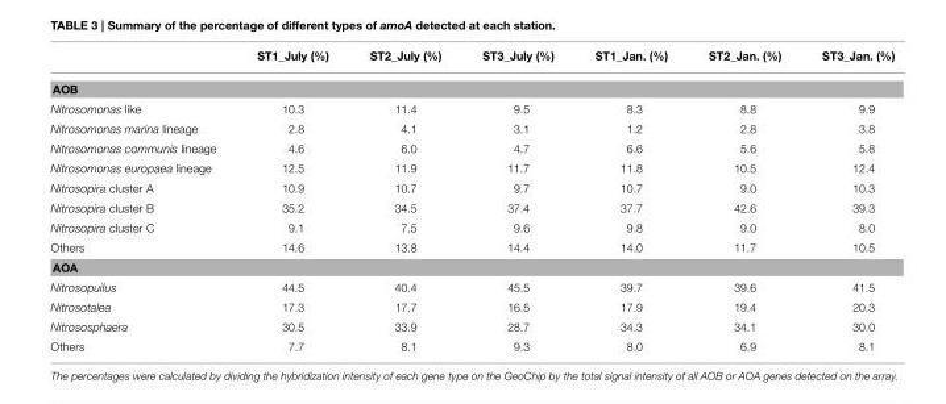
<table><thead><tr><td></td><td>ST1_July (%)</td><td>ST2_July (%)</td><td>ST3_July (%)</td><td>ST1_Jan. (%)</td><td>ST2_Jan. (%)</td><td>ST3_Jan. (%)</td></tr></thead><tbody><tr><td colspan="7">AOB</td></tr><tr><td>Nitrosomonas like</td><td>10.3</td><td>11.4</td><td>9.5</td><td>8.3</td><td>8.8</td><td>9.9</td></tr><tr><td>Nitrosomonas marina lineage</td><td>2.8</td><td>4.1</td><td>3.1</td><td>1.2</td><td>2.8</td><td>3.8</td></tr><tr><td>Nitrosomonas communis lineage</td><td>4.6</td><td>6.0</td><td>4.7</td><td>6.6</td><td>5.6</td><td>5.8</td></tr><tr><td>Nitrosomonas europaea lineage</td><td>12.5</td><td>11.9</td><td>11.7</td><td>11.8</td><td>10.5</td><td>12.4</td></tr><tr><td>Nitrosopira cluster A</td><td>10.9</td><td>10.7</td><td>9.7</td><td>10.7</td><td>9.0</td><td>10.3</td></tr><tr><td>Nitrosopira cluster B</td><td>35.2</td><td>34.5</td><td>37.4</td><td>37.7</td><td>42.6</td><td>39.3</td></tr><tr><td>Nitrosopira cluster C</td><td>9.1</td><td>7.5</td><td>9.6</td><td>9.8</td><td>9.0</td><td>8.0</td></tr><tr><td>Others</td><td>14.6</td><td>13.8</td><td>14.4</td><td>14.0</td><td>11.7</td><td>10.5</td></tr><tr><td colspan="7">AOA</td></tr><tr><td>Nitrosopuilus</td><td>44.5</td><td>40.4</td><td>45.5</td><td>39.7</td><td>39.6</td><td>41.5</td></tr><tr><td>Nitrosotalea</td><td>17.3</td><td>17.7</td><td>16.5</td><td>17.9</td><td>19.4</td><td>20.3</td></tr><tr><td>Nitrososphaera</td><td>30.5</td><td>33.9</td><td>28.7</td><td>34.3</td><td>34.1</td><td>30.0</td></tr><tr><td>Others</td><td>7.7</td><td>8.1</td><td>9.3</td><td>8.0</td><td>6.9</td><td>8.1</td></tr></tbody></table>